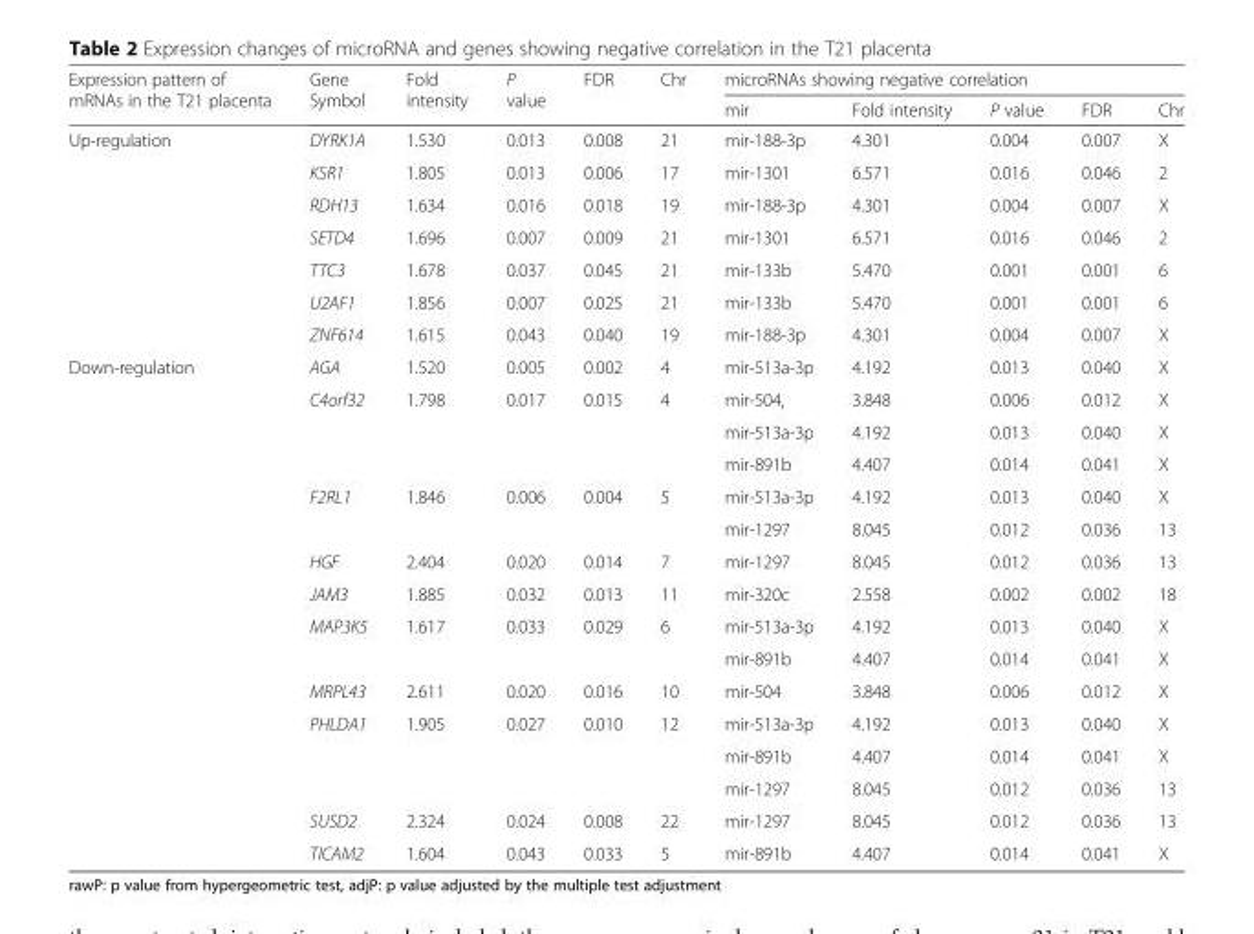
<table><thead><tr><td rowspan="2">Expression pattern of mRNAs in the T21 placenta</td><td rowspan="2">Gene Symbol</td><td rowspan="2">Fold intensity</td><td rowspan="2">P value</td><td rowspan="2">FDR</td><td rowspan="2">Chr</td><td colspan="5">microRNAs showing negative correlation</td></tr><tr><td>mir</td><td>Fold intensity</td><td>P value</td><td>FDR</td><td>Chr</td></tr></thead><tbody><tr><td rowspan="7">Up-regulation</td><td>DYRK1A</td><td>1.530</td><td>0.013</td><td>0.008</td><td>21</td><td>mir-188-3p</td><td>4.301</td><td>0.004</td><td>0.007</td><td>X</td></tr><tr><td>KSR1</td><td>1.805</td><td>0.013</td><td>0.006</td><td>17</td><td>mir-1301</td><td>6.571</td><td>0.016</td><td>0.046</td><td>2</td></tr><tr><td>RDH13</td><td>1.634</td><td>0.016</td><td>0.018</td><td>19</td><td>mir-188-3p</td><td>4.301</td><td>0.004</td><td>0.007</td><td>X</td></tr><tr><td>SETD4</td><td>1.696</td><td>0.007</td><td>0.009</td><td>21</td><td>mir-1301</td><td>6.571</td><td>0.016</td><td>0.046</td><td>2</td></tr><tr><td>TTC3</td><td>1.678</td><td>0.037</td><td>0.045</td><td>21</td><td>mir-133b</td><td>5.470</td><td>0.001</td><td>0.001</td><td>6</td></tr><tr><td>U2AF1</td><td>1.856</td><td>0.007</td><td>0.025</td><td>21</td><td>mir-133b</td><td>5.470</td><td>0.001</td><td>0.001</td><td>6</td></tr><tr><td>ZNF614</td><td>1.615</td><td>0.043</td><td>0.040</td><td>19</td><td>mir-188-3p</td><td>4.301</td><td>0.004</td><td>0.007</td><td>X</td></tr><tr><td rowspan="16">Down-regulation</td><td>AGA</td><td>1.520</td><td>0.005</td><td>0.002</td><td>4</td><td>mir-513a-3p</td><td>4.192</td><td>0.013</td><td>0.040</td><td>X</td></tr><tr><td rowspan="3">C4orf32</td><td rowspan="3">1.798</td><td rowspan="3">0.017</td><td rowspan="3">0.015</td><td rowspan="3">4</td><td>mir-504,</td><td>3.848</td><td>0.006</td><td>0.012</td><td>X</td></tr><tr><td>mir-513a-3p</td><td>4.192</td><td>0.013</td><td>0.040</td><td>X</td></tr><tr><td>mir-891b</td><td>4.407</td><td>0.014</td><td>0.041</td><td>X</td></tr><tr><td rowspan="2">F2RL1</td><td rowspan="2">1.846</td><td rowspan="2">0.006</td><td rowspan="2">0.004</td><td rowspan="2">5</td><td>mir-513a-3p</td><td>4.192</td><td>0.013</td><td>0.040</td><td>X</td></tr><tr><td>mir-1297</td><td>8.045</td><td>0.012</td><td>0.036</td><td>13</td></tr><tr><td>HGF</td><td>2.404</td><td>0.020</td><td>0.014</td><td>7</td><td>mir-1297</td><td>8.045</td><td>0.012</td><td>0.036</td><td>13</td></tr><tr><td>JAM3</td><td>1.885</td><td>0.032</td><td>0.013</td><td>11</td><td>mir-320c</td><td>2.558</td><td>0.002</td><td>0.002</td><td>18</td></tr><tr><td rowspan="2">MAP3K5</td><td rowspan="2">1.617</td><td rowspan="2">0.033</td><td rowspan="2">0.029</td><td rowspan="2">6</td><td>mir-513a-3p</td><td>4.192</td><td>0.013</td><td>0.040</td><td>X</td></tr><tr><td>mir-891b</td><td>4.407</td><td>0.014</td><td>0.041</td><td>X</td></tr><tr><td>MRPL43</td><td>2.611</td><td>0.020</td><td>0.016</td><td>10</td><td>mir-504</td><td>3.848</td><td>0.006</td><td>0.012</td><td>X</td></tr><tr><td rowspan="3">PHLDA1</td><td rowspan="3">1.905</td><td rowspan="3">0.027</td><td rowspan="3">0.010</td><td rowspan="3">12</td><td>mir-513a-3p</td><td>4.192</td><td>0.013</td><td>0.040</td><td>X</td></tr><tr><td>mir-891b</td><td>4.407</td><td>0.014</td><td>0.041</td><td>X</td></tr><tr><td>mir-1297</td><td>8.045</td><td>0.012</td><td>0.036</td><td>13</td></tr><tr><td>SUSD2</td><td>2.324</td><td>0.024</td><td>0.008</td><td>22</td><td>mir-1297</td><td>8.045</td><td>0.012</td><td>0.036</td><td>13</td></tr><tr><td>TICAM2</td><td>1.604</td><td>0.043</td><td>0.033</td><td>5</td><td>mir-891b</td><td>4.407</td><td>0.014</td><td>0.041</td><td>X</td></tr></tbody></table>